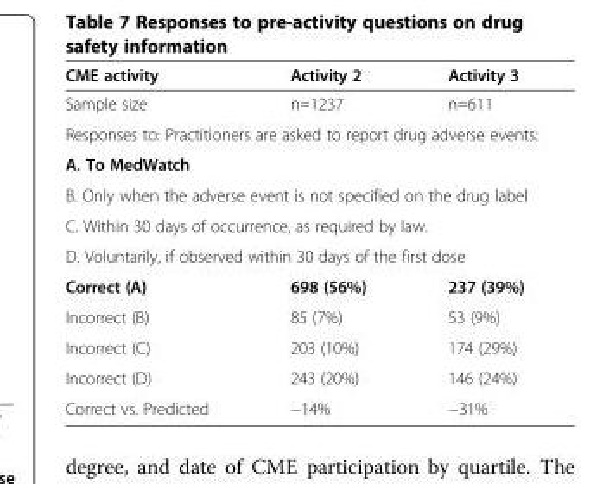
<table><thead><tr><td>CME activity</td><td>Activity 2</td><td>Activity 3</td></tr></thead><tbody><tr><td>Sample size</td><td>n=1237</td><td>n=611</td></tr><tr><td colspan="3">Responses to: Practitioners are asked to report drug adverse events:</td></tr><tr><td colspan="3">A. To MedWatch</td></tr><tr><td colspan="3">B. Only when the adverse event is not specified on the drug label</td></tr><tr><td colspan="3">C. Within 30 days of occurrence, as required by law.</td></tr><tr><td colspan="3">D. Voluntarily, if observed within 30 days of the first dose</td></tr><tr><td>Correct (A)</td><td>698 (56%)</td><td>237 (39%)</td></tr><tr><td>Incorrect (B)</td><td>85 (7%)</td><td>53 (9%)</td></tr><tr><td>Incorrect (C)</td><td>203 (10%)</td><td>174 (29%)</td></tr><tr><td>Incorrect (D)</td><td>243 (20%)</td><td>146 (24%)</td></tr><tr><td>Correct vs. Predicted</td><td>−14%</td><td>−31%</td></tr></tbody></table>